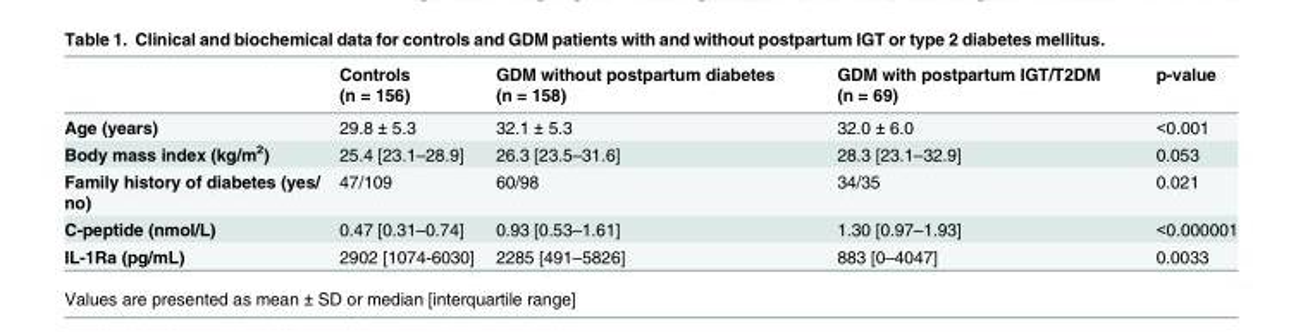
<table><thead><tr><td></td><td>Controls (n = 156)</td><td>GDM without postpartum diabetes (n = 158)</td><td>GDM with postpartum IGT/T2DM (n = 69)</td><td>p-value</td></tr></thead><tbody><tr><td>Age (years)</td><td>29.8 ± 5.3</td><td>32.1 ± 5.3</td><td>32.0 ± 6.0</td><td>&lt;0.001</td></tr><tr><td>Body mass index (kg/m<sup>2</sup>)</td><td>25.4 [23.1–28.9]</td><td>26.3 [23.5–31.6]</td><td>28.3 [23.1–32.9]</td><td>0.053</td></tr><tr><td>Family history of diabetes (yes/ no)</td><td>47/109</td><td>60/98</td><td>34/35</td><td>0.021</td></tr><tr><td>C-peptide (nmol/L)</td><td>0.47 [0.31–0.74]</td><td>0.93 [0.53–1.61]</td><td>1.30 [0.97–1.93]</td><td>&lt;0.000001</td></tr><tr><td>IL-1Ra (pg/mL)</td><td>2902 [1074-6030]</td><td>2285 [491–5826]</td><td>883 [0–4047]</td><td>0.0033</td></tr></tbody></table>